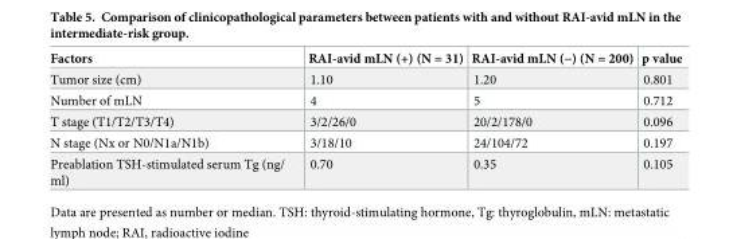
<table><thead><tr><td>Factors</td><td>RAI-avid mLN (+) (N = 31)</td><td>RAI-avid mLN (−) (N = 200)</td><td>p value</td></tr></thead><tbody><tr><td>Tumor size (cm)</td><td>1.10</td><td>1.20</td><td>0.801</td></tr><tr><td>Number of mLN</td><td>4</td><td>5</td><td>0.712</td></tr><tr><td>T stage (T1/T2/T3/T4)</td><td>3/2/26/0</td><td>20/2/178/0</td><td>0.096</td></tr><tr><td>N stage (Nx or N0/N1a/N1b)</td><td>3/18/10</td><td>24/104/72</td><td>0.197</td></tr><tr><td>Preablation TSH-stimulated serum Tg (ng/ ml)</td><td>0.70</td><td>0.35</td><td>0.105</td></tr></tbody></table>